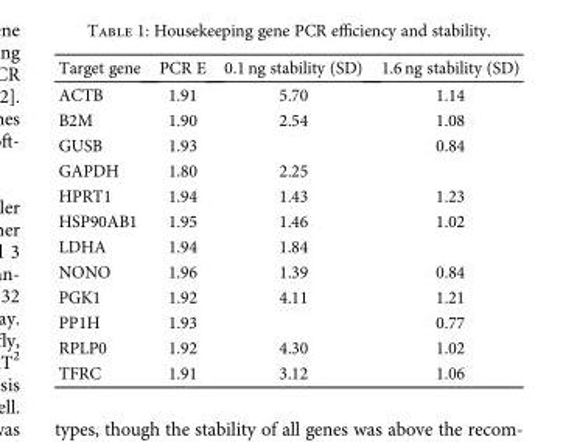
<table><thead><tr><td>Target gene</td><td>PCR E</td><td>0.1 ng stability (SD)</td><td>1.6 ng stability (SD)</td></tr></thead><tbody><tr><td>ACTB</td><td>1.91</td><td>5.70</td><td>1.14</td></tr><tr><td>B2M</td><td>1.90</td><td>2.54</td><td>1.08</td></tr><tr><td>GUSB</td><td>1.93</td><td></td><td>0.84</td></tr><tr><td>GAPDH</td><td>1.80</td><td>2.25</td><td></td></tr><tr><td>HPRT1</td><td>1.94</td><td>1.43</td><td>1.23</td></tr><tr><td>HSP90AB1</td><td>1.95</td><td>1.46</td><td>1.02</td></tr><tr><td>LDHA</td><td>1.94</td><td>1.84</td><td></td></tr><tr><td>NONO</td><td>1.96</td><td>1.39</td><td>0.84</td></tr><tr><td>PGK1</td><td>1.92</td><td>4.11</td><td>1.21</td></tr><tr><td>PP1H</td><td>1.93</td><td></td><td>0.77</td></tr><tr><td>RPLP0</td><td>1.92</td><td>4.30</td><td>1.02</td></tr><tr><td>TFRC</td><td>1.91</td><td>3.12</td><td>1.06</td></tr></tbody></table>